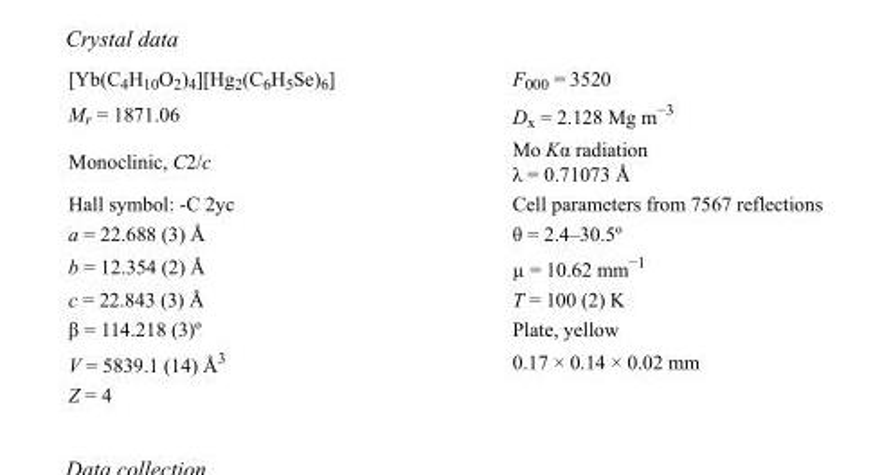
<table><tbody><tr><td>[Yb(C<sub>4</sub>H<sub>10</sub>O<sub>2</sub>)<sub>4</sub>][Hg<sub>2</sub>(C<sub>6</sub>H<sub>5</sub>Se)<sub>6</sub>]</td><td>F<sub>000</sub> = 3520</td></tr><tr><td>M<sub>r</sub> = 1871.06</td><td>D<sub>x</sub> = 2.128 Mg m<sup>−3</sup></td></tr><tr><td>Monoclinic, C2/c</td><td>Mo Kα radiation λ = 0.71073 Å</td></tr><tr><td>Hall symbol: -C 2yc</td><td>Cell parameters from 7567 reflections</td></tr><tr><td>a = 22.688 (3) Å</td><td>θ = 2.4–30.5º</td></tr><tr><td>b = 12.354 (2) Å</td><td>µ = 10.62 mm<sup>−1</sup></td></tr><tr><td>c = 22.843 (3) Å</td><td>T = 100 (2) K</td></tr><tr><td>β = 114.218 (3)º</td><td>Plate, yellow</td></tr><tr><td>V = 5839.1 (14) Å<sup>3</sup></td><td>0.17 × 0.14 × 0.02 mm</td></tr><tr><td>Z = 4</td><td></td></tr></tbody></table>